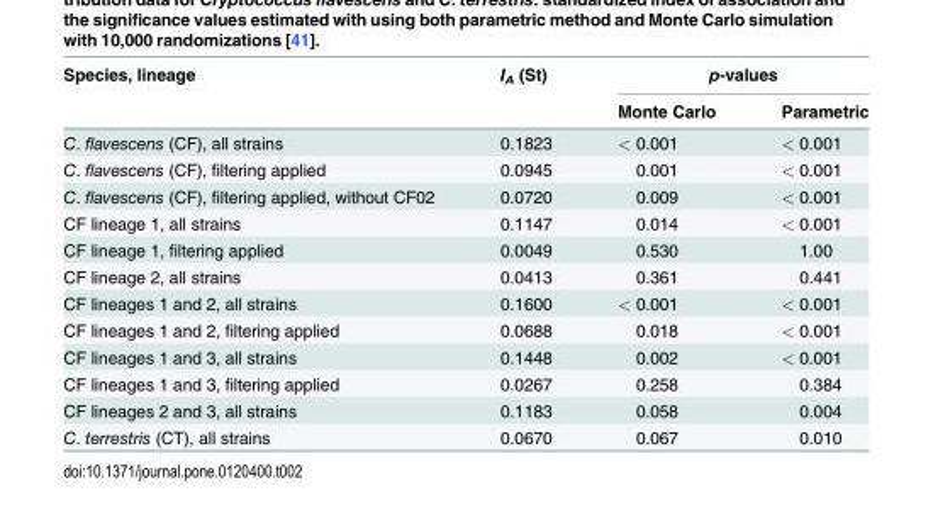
<table><thead><tr><td rowspan="2">Species, lineage</td><td rowspan="2">I<sub>A</sub> (St)</td><td colspan="2">p-values</td></tr><tr><td>Monte Carlo</td><td>Parametric</td></tr></thead><tbody><tr><td>C. flavescens (CF), all strains</td><td>0.1823</td><td>&lt; 0.001</td><td>&lt; 0.001</td></tr><tr><td>C. flavescens (CF), filtering applied</td><td>0.0945</td><td>0.001</td><td>&lt; 0.001</td></tr><tr><td>C. flavescens (CF), filtering applied, without CF02</td><td>0.0720</td><td>0.009</td><td>&lt; 0.001</td></tr><tr><td>CF lineage 1, all strains</td><td>0.1147</td><td>0.014</td><td>&lt; 0.001</td></tr><tr><td>CF lineage 1, filtering applied</td><td>0.0049</td><td>0.530</td><td>1.00</td></tr><tr><td>CF lineage 2, all strains</td><td>0.0413</td><td>0.361</td><td>0.441</td></tr><tr><td>CF lineages 1 and 2, all strains</td><td>0.1600</td><td>&lt; 0.001</td><td>&lt; 0.001</td></tr><tr><td>CF lineages 1 and 2, filtering applied</td><td>0.0688</td><td>0.018</td><td>&lt; 0.001</td></tr><tr><td>CF lineages 1 and 3, all strains</td><td>0.1448</td><td>0.002</td><td>&lt; 0.001</td></tr><tr><td>CF lineages 1 and 3, filtering applied</td><td>0.0267</td><td>0.258</td><td>0.384</td></tr><tr><td>CF lineages 2 and 3, all strains</td><td>0.1183</td><td>0.058</td><td>0.004</td></tr><tr><td>C. terrestris (CT), all strains</td><td>0.0670</td><td>0.067</td><td>0.010</td></tr></tbody></table>